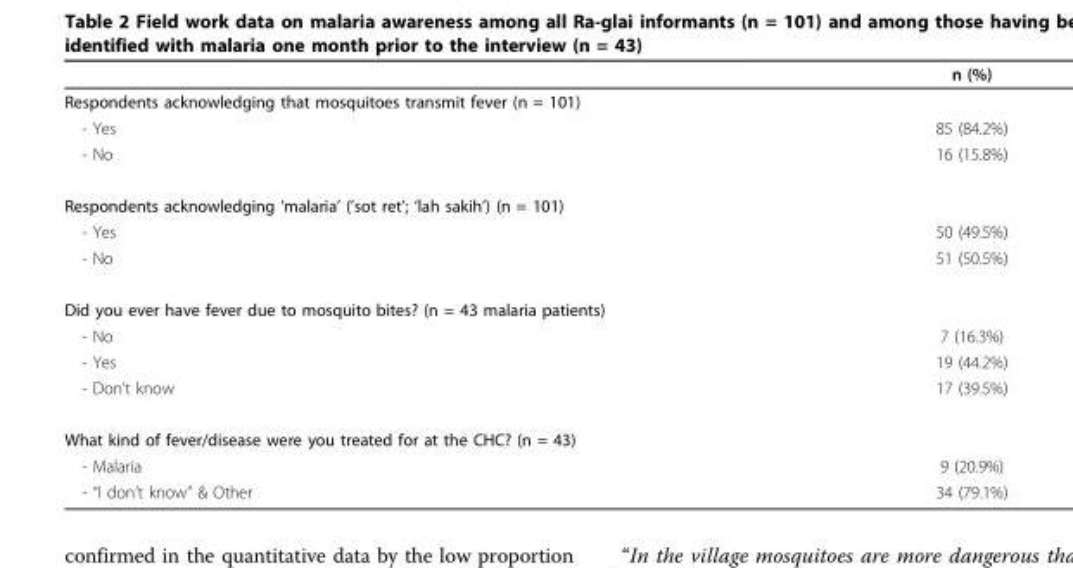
<table><thead><tr><td></td><td>n (%)</td></tr></thead><tbody><tr><td colspan="2">Respondents acknowledging that mosquitoes transmit fever (n = 101)</td></tr><tr><td>- Yes</td><td>85 (84.2%)</td></tr><tr><td>- No</td><td>16 (15.8%)</td></tr><tr><td colspan="2">Respondents acknowledging ‘malaria’ (’sot ret’; ‘lah sakih’) (n = 101)</td></tr><tr><td>- Yes</td><td>50 (49.5%)</td></tr><tr><td>- No</td><td>51 (50.5%)</td></tr><tr><td colspan="2">Did you ever have fever due to mosquito bites? (n = 43 malaria patients)</td></tr><tr><td>- No</td><td>7 (16.3%)</td></tr><tr><td>- Yes</td><td>19 (44.2%)</td></tr><tr><td>- Don’t know</td><td>17 (39.5%)</td></tr><tr><td colspan="2">What kind of fever/disease were you treated for at the CHC? (n = 43)</td></tr><tr><td>- Malaria</td><td>9 (20.9%)</td></tr><tr><td>- “I don’t know” &amp; Other</td><td>34 (79.1%)</td></tr></tbody></table>